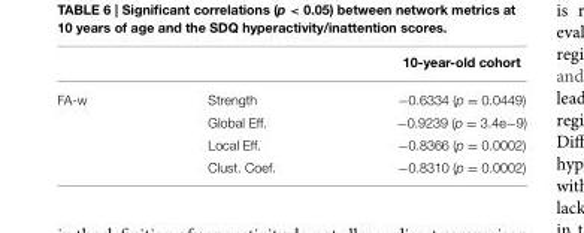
<table><thead><tr><td></td><td></td><td>10-year-old cohort</td></tr></thead><tbody><tr><td rowspan="4">FA-w</td><td>Strength</td><td>−0.6334 (p = 0.0449)</td></tr><tr><td>Global Eff.</td><td>−0.9239 (p = 3.4e−9)</td></tr><tr><td>Local Eff.</td><td>−0.8366 (p = 0.0002)</td></tr><tr><td>Clust. Coef.</td><td>−0.8310 (p = 0.0002)</td></tr></tbody></table>